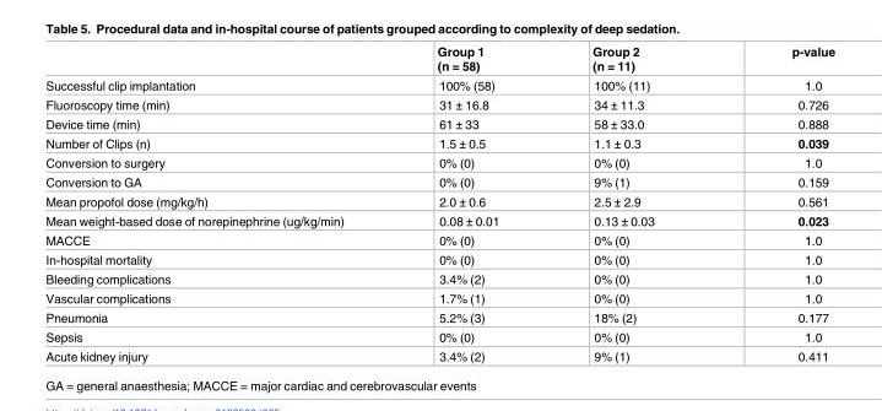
<table><thead><tr><td></td><td>Group 1 (n = 58)</td><td>Group 2 (n = 11)</td><td>p-value</td></tr></thead><tbody><tr><td>Successful clip implantation</td><td>100% (58)</td><td>100% (11)</td><td>1.0</td></tr><tr><td>Fluoroscopy time (min)</td><td>31 ± 16.8</td><td>34 ± 11.3</td><td>0.726</td></tr><tr><td>Device time (min)</td><td>61 ± 33</td><td>58 ± 33.0</td><td>0.888</td></tr><tr><td>Number of Clips (n)</td><td>1.5 ± 0.5</td><td>1.1 ± 0.3</td><td>0.039</td></tr><tr><td>Conversion to surgery</td><td>0% (0)</td><td>0% (0)</td><td>1.0</td></tr><tr><td>Conversion to GA</td><td>0% (0)</td><td>9% (1)</td><td>0.159</td></tr><tr><td>Mean propofol dose (mg/kg/h)</td><td>2.0 ± 0.6</td><td>2.5 ± 2.9</td><td>0.561</td></tr><tr><td>Mean weight-based dose of norepinephrine (ug/kg/min)</td><td>0.08 ± 0.01</td><td>0.13 ± 0.03</td><td>0.023</td></tr><tr><td>MACCE</td><td>0% (0)</td><td>0% (0)</td><td>1.0</td></tr><tr><td>In-hospital mortality</td><td>0% (0)</td><td>0% (0)</td><td>1.0</td></tr><tr><td>Bleeding complications</td><td>3.4% (2)</td><td>0% (0)</td><td>1.0</td></tr><tr><td>Vascular complications</td><td>1.7% (1)</td><td>0% (0)</td><td>1.0</td></tr><tr><td>Pneumonia</td><td>5.2% (3)</td><td>18% (2)</td><td>0.177</td></tr><tr><td>Sepsis</td><td>0% (0)</td><td>0% (0)</td><td>1.0</td></tr><tr><td>Acute kidney injury</td><td>3.4% (2)</td><td>9% (1)</td><td>0.411</td></tr></tbody></table>